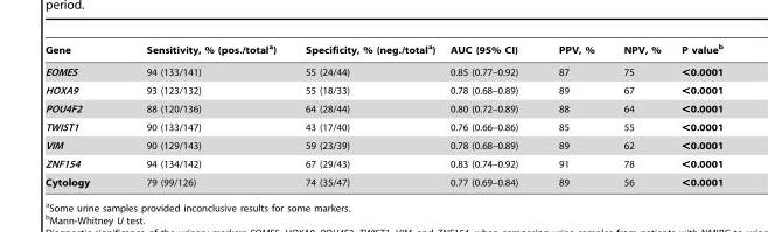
<table><thead><tr><td>Gene</td><td>Sensitivity, % (pos./total<sup>a</sup>)</td><td>Specificity, % (neg./total<sup>a</sup>)</td><td>AUC (95% CI)</td><td>PPV, %</td><td>NPV, %</td><td>P value<sup>b</sup></td></tr></thead><tbody><tr><td>EOMES</td><td>94 (133/141)</td><td>55 (24/44)</td><td>0.85 (0.77–0.92)</td><td>87</td><td>75</td><td>&lt;0.0001</td></tr><tr><td>HOXA9</td><td>93 (123/132)</td><td>55 (18/33)</td><td>0.78 (0.68–0.89)</td><td>89</td><td>67</td><td>&lt;0.0001</td></tr><tr><td>POU4F2</td><td>88 (120/136)</td><td>64 (28/44)</td><td>0.80 (0.72–0.89)</td><td>88</td><td>64</td><td>&lt;0.0001</td></tr><tr><td>TWIST1</td><td>90 (133/147)</td><td>43 (17/40)</td><td>0.76 (0.66–0.86)</td><td>85</td><td>55</td><td>&lt;0.0001</td></tr><tr><td>VIM</td><td>90 (129/143)</td><td>59 (23/39)</td><td>0.78 (0.68–0.89)</td><td>89</td><td>62</td><td>&lt;0.0001</td></tr><tr><td>ZNF154</td><td>94 (134/142)</td><td>67 (29/43)</td><td>0.83 (0.74–0.92)</td><td>91</td><td>78</td><td>&lt;0.0001</td></tr><tr><td>Cytology</td><td>79 (99/126)</td><td>74 (35/47)</td><td>0.77 (0.69–0.84)</td><td>89</td><td>56</td><td>&lt;0.0001</td></tr></tbody></table>